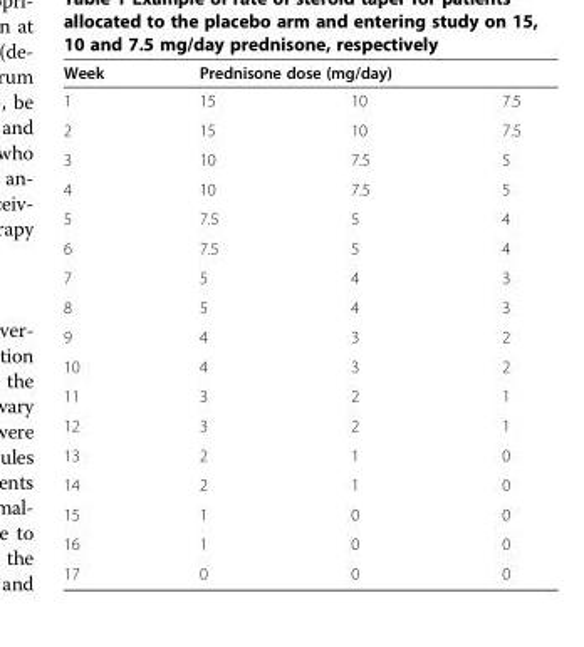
<table><thead><tr><td rowspan="2">Week 1</td><td colspan="3">Prednisone dose (mg/day)</td></tr><tr><td>15</td><td>10</td><td>7.5</td></tr></thead><tbody><tr><td>2</td><td>15</td><td>10</td><td>7.5</td></tr><tr><td>3</td><td>10</td><td>7.5</td><td>5</td></tr><tr><td>4</td><td>10</td><td>7.5</td><td>5</td></tr><tr><td>5</td><td>7.5</td><td>5</td><td>4</td></tr><tr><td>6</td><td>7.5</td><td>5</td><td>4</td></tr><tr><td>7</td><td>5</td><td>4</td><td>3</td></tr><tr><td>8</td><td>5</td><td>4</td><td>3</td></tr><tr><td>9</td><td>4</td><td>3</td><td>2</td></tr><tr><td>10</td><td>4</td><td>3</td><td>2</td></tr><tr><td>11</td><td>3</td><td>2</td><td>1</td></tr><tr><td>12</td><td>3</td><td>2</td><td>1</td></tr><tr><td>13</td><td>2</td><td>1</td><td>0</td></tr><tr><td>14</td><td>2</td><td>1</td><td>0</td></tr><tr><td>15</td><td>1</td><td>0</td><td>0</td></tr><tr><td>16</td><td>1</td><td>0</td><td>0</td></tr><tr><td>17</td><td>0</td><td>0</td><td>0</td></tr></tbody></table>